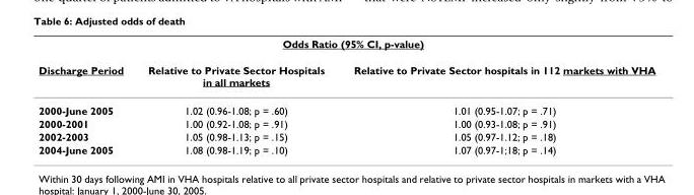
<table><thead><tr><td colspan="3">Odds Ratio (95% CI, p-value)</td></tr><tr><td>Discharge Period</td><td>Relative to Private Sector Hospitals in all markets</td><td>Relative to Private Sector hospitals in 112 markets with VHA</td></tr></thead><tbody><tr><td>2000-June 2005</td><td>1.02 (0.96-1.08; p = .60)</td><td>1.01 (0.95-1.07; p = .71)</td></tr><tr><td>2000-2001</td><td>1.00 (0.92-1.08; p = .91)</td><td>1.00 (0.93-1.08; p = .91)</td></tr><tr><td>2002-2003</td><td>1.05 (0.98-1.13; p = .15)</td><td>1.05 (0.97-1.12; p = .18)</td></tr><tr><td>2004-June 2005</td><td>1.08 (0.98-1.19; p = .10)</td><td>1.07 (0.97-1;18; p = .14)</td></tr></tbody></table>